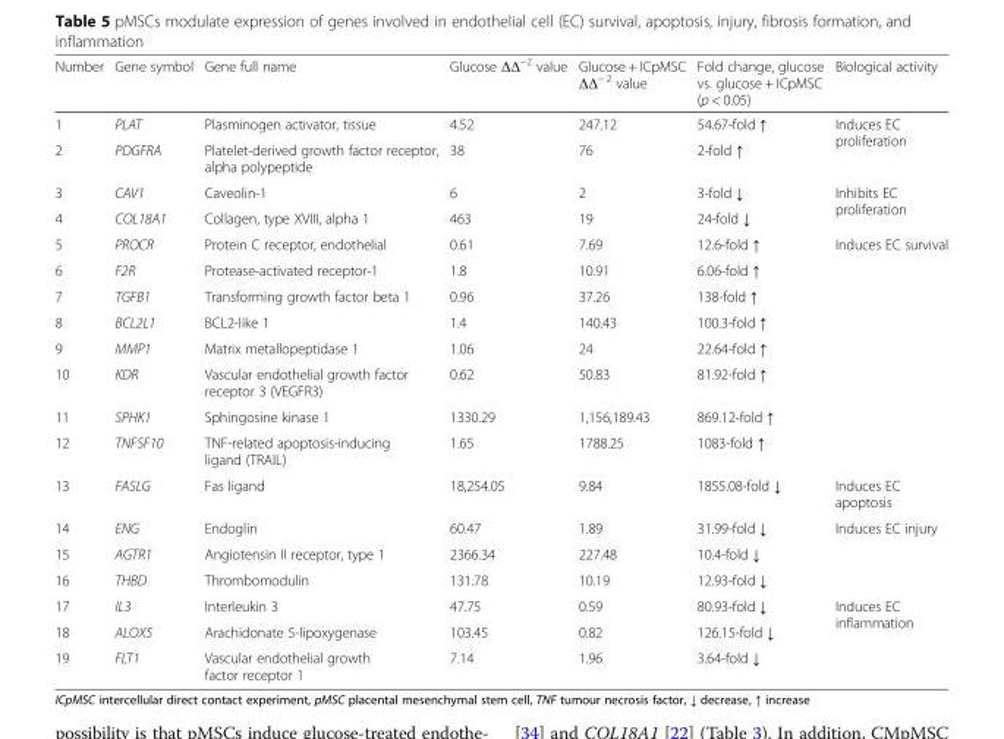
<table><thead><tr><td>Number</td><td>Gene symbol</td><td>Gene full name</td><td>Glucose ΔΔ<sup>−2</sup> value</td><td>Glucose + ICpMSC ΔΔ<sup>− 2</sup> value</td><td>Fold change, glucose vs. glucose + ICpMSC (p &lt; 0.05)</td><td>Biological activity</td></tr></thead><tbody><tr><td>1</td><td>PLAT</td><td>Plasminogen activator, tissue</td><td>4.52</td><td>247.12</td><td>54.67-fold ↑</td><td rowspan="2">Induces EC proliferation</td></tr><tr><td>2</td><td>PDGFRA</td><td>Platelet-derived growth factor receptor, alpha polypeptide</td><td>38</td><td>76</td><td>2-fold ↑</td></tr><tr><td>3</td><td>CAV1</td><td>Caveolin-1</td><td>6</td><td>2</td><td>3-fold ↓</td><td rowspan="2">Inhibits EC proliferation</td></tr><tr><td>4</td><td>COL18A1</td><td>Collagen, type XVIII, alpha 1</td><td>463</td><td>19</td><td>24-fold ↓</td></tr><tr><td>5</td><td>PROCR</td><td>Protein C receptor, endothelial</td><td>0.61</td><td>7.69</td><td>12.6-fold ↑</td><td rowspan="8">Induces EC survival</td></tr><tr><td>6</td><td>F2R</td><td>Protease-activated receptor-1</td><td>1.8</td><td>10.91</td><td>6.06-fold ↑</td></tr><tr><td>7</td><td>TGFB1</td><td>Transforming growth factor beta 1</td><td>0.96</td><td>37.26</td><td>138-fold ↑</td></tr><tr><td>8</td><td>BCL2L1</td><td>BCL2-like 1</td><td>1.4</td><td>140.43</td><td>100.3-fold ↑</td></tr><tr><td>9</td><td>MMP1</td><td>Matrix metallopeptidase 1</td><td>1.06</td><td>24</td><td>22.64-fold ↑</td></tr><tr><td>10</td><td>KDR</td><td>Vascular endothelial growth factor receptor 3 (VEGFR3)</td><td>0.62</td><td>50.83</td><td>81.92-fold ↑</td></tr><tr><td>11</td><td>SPHK1</td><td>Sphingosine kinase 1</td><td>1330.29</td><td>1,156,189.43</td><td>869.12-fold ↑</td></tr><tr><td>12</td><td>TNFSF10</td><td>TNF-related apoptosis-inducing ligand (TRAIL)</td><td>1.65</td><td>1788.25</td><td>1083-fold ↑</td></tr><tr><td>13</td><td>FASLG</td><td>Fas ligand</td><td>18,254.05</td><td>9.84</td><td>1855.08-fold ↓</td><td>Induces EC apoptosis</td></tr><tr><td>14</td><td>ENG</td><td>Endoglin</td><td>60.47</td><td>1.89</td><td>31.99-fold ↓</td><td rowspan="3">Induces EC injury</td></tr><tr><td>15</td><td>AGTR1</td><td>Angiotensin II receptor, type 1</td><td>2366.34</td><td>227.48</td><td>10.4-fold ↓</td></tr><tr><td>16</td><td>THBD</td><td>Thrombomodulin</td><td>131.78</td><td>10.19</td><td>12.93-fold ↓</td></tr><tr><td>17</td><td>IL3</td><td>Interleukin 3</td><td>47.75</td><td>0.59</td><td>80.93-fold ↓</td><td rowspan="3">Induces EC inflammation</td></tr><tr><td>18</td><td>ALOX5</td><td>Arachidonate 5-lipoxygenase</td><td>103.45</td><td>0.82</td><td>126.15-fold ↓</td></tr><tr><td>19</td><td>FLT1</td><td>Vascular endothelial growth factor receptor 1</td><td>7.14</td><td>1.96</td><td>3.64-fold ↓</td></tr></tbody></table>